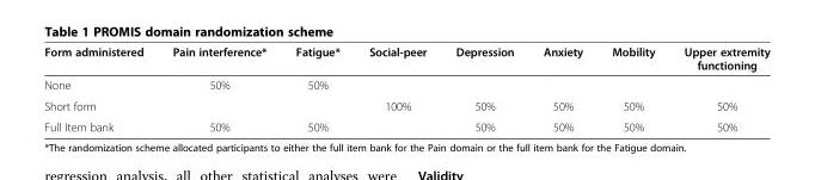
<table><thead><tr><td>Form administered</td><td>Pain interference*</td><td>Fatigue*</td><td>Social-peer</td><td>Depression</td><td>Anxiety</td><td>Mobility</td><td>Upper extremity functioning</td></tr></thead><tbody><tr><td>None</td><td>50%</td><td>50%</td><td></td><td></td><td></td><td></td><td></td></tr><tr><td>Short form</td><td></td><td></td><td>100%</td><td>50%</td><td>50%</td><td>50%</td><td>50%</td></tr><tr><td>Full Item bank</td><td>50%</td><td>50%</td><td></td><td>50%</td><td>50%</td><td>50%</td><td>50%</td></tr></tbody></table>